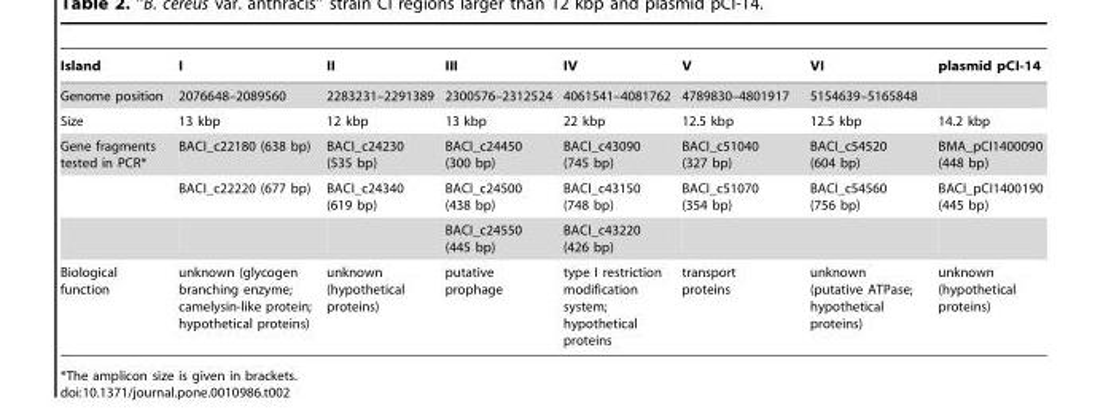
<table><thead><tr><td>Island</td><td>I</td><td>II</td><td>III</td><td>IV</td><td>V</td><td>VI</td><td>plasmid pCI-14</td></tr></thead><tbody><tr><td>Genome position</td><td>2076648–2089560</td><td>2283231–2291389</td><td>2300576–2312524</td><td>4061541–4081762</td><td>4789830–4801917</td><td>5154639–5165848</td><td></td></tr><tr><td>Size</td><td>13 kbp</td><td>12 kbp</td><td>13 kbp</td><td>22 kbp</td><td>12.5 kbp</td><td>12.5 kbp</td><td>14.2 kbp</td></tr><tr><td rowspan="3">Gene fragments tested in PCR*</td><td>BACI_c22180 (638 bp)</td><td>BACI_c24230 (535 bp)</td><td>BACI_c24450 (300 bp)</td><td>BACI_c43090 (745 bp)</td><td>BACI_c51040 (327 bp)</td><td>BACI_c54520 (604 bp)</td><td>BMA_pCI1400090 (448 bp)</td></tr><tr><td>BACI_c22220 (677 bp)</td><td>BACI_c24340 (619 bp)</td><td>BACI_c24500 (438 bp)</td><td>BACI_c43150 (748 bp)</td><td>BACI_c51070 (354 bp)</td><td>BACI_c54560 (756 bp)</td><td>BACI_pCI1400190 (445 bp)</td></tr><tr><td></td><td></td><td>BACI_c24550 (445 bp)</td><td>BACI_c43220 (426 bp)</td><td></td><td></td><td></td></tr><tr><td>Biological function</td><td>unknown (glycogen branching enzyme; camelysin-like protein; hypothetical proteins)</td><td>unknown (hypothetical proteins)</td><td>putative prophage</td><td>type I restriction modification system; hypothetical proteins</td><td>transport proteins</td><td>unknown (putative ATPase; hypothetical proteins)</td><td>unknown (hypothetical proteins)</td></tr></tbody></table>